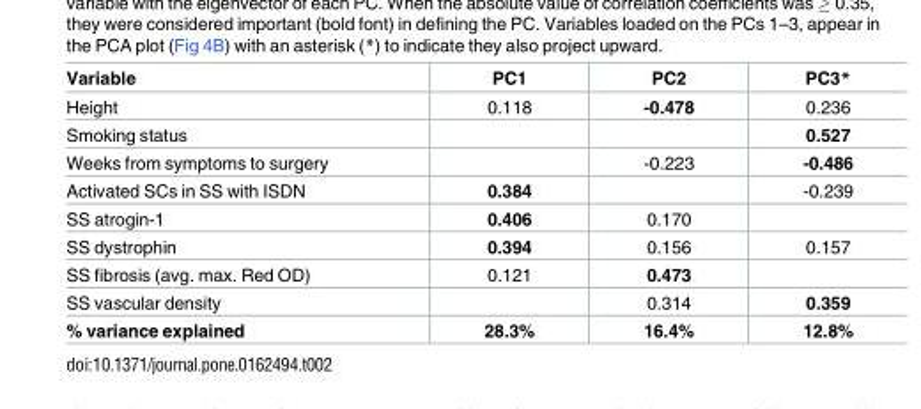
<table><thead><tr><td>Variable</td><td>PC1</td><td>PC2</td><td>PC3*</td></tr></thead><tbody><tr><td>Height</td><td>0.118</td><td>-0.478</td><td>0.236</td></tr><tr><td>Smoking status</td><td></td><td></td><td>0.527</td></tr><tr><td>Weeks from symptoms to surgery</td><td></td><td>-0.223</td><td>-0.486</td></tr><tr><td>Activated SCs in SS with ISDN</td><td>0.384</td><td></td><td>-0.239</td></tr><tr><td>SS atrogin-1</td><td>0.406</td><td>0.170</td><td></td></tr><tr><td>SS dystrophin</td><td>0.394</td><td>0.156</td><td>0.157</td></tr><tr><td>SS fibrosis (avg. max. Red OD)</td><td>0.121</td><td>0.473</td><td></td></tr><tr><td>SS vascular density</td><td></td><td>0.314</td><td>0.359</td></tr><tr><td>% variance explained</td><td>28.3%</td><td>16.4%</td><td>12.8%</td></tr></tbody></table>